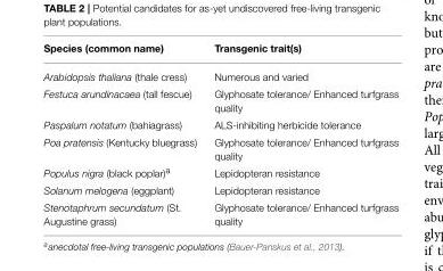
<table><thead><tr><td>Species (common name)</td><td>Transgenic trait(s)</td></tr></thead><tbody><tr><td>Arabidopsis thaliana (thale cress)</td><td>Numerous and varied</td></tr><tr><td>Festuca arundinacaea (tall fescue)</td><td>Glyphosate tolerance/ Enhanced turfgrass quality</td></tr><tr><td>Paspalum notatum (bahiagrass)</td><td>ALS-inhibiting herbicide tolerance</td></tr><tr><td>Poa pratensis (Kentucky bluegrass)</td><td>Glyphosate tolerance/ Enhanced turfgrass quality</td></tr><tr><td>Populus nigra (black poplar)<sup>a</sup></td><td>Lepidopteran resistance</td></tr><tr><td>Solanum melogena (eggplant)</td><td>Lepidopteran resistance</td></tr><tr><td>Stenotaphrum secundatum (St. Augustine grass)</td><td>Glyphosate tolerance/ Enhanced turfgrass quality</td></tr></tbody></table>